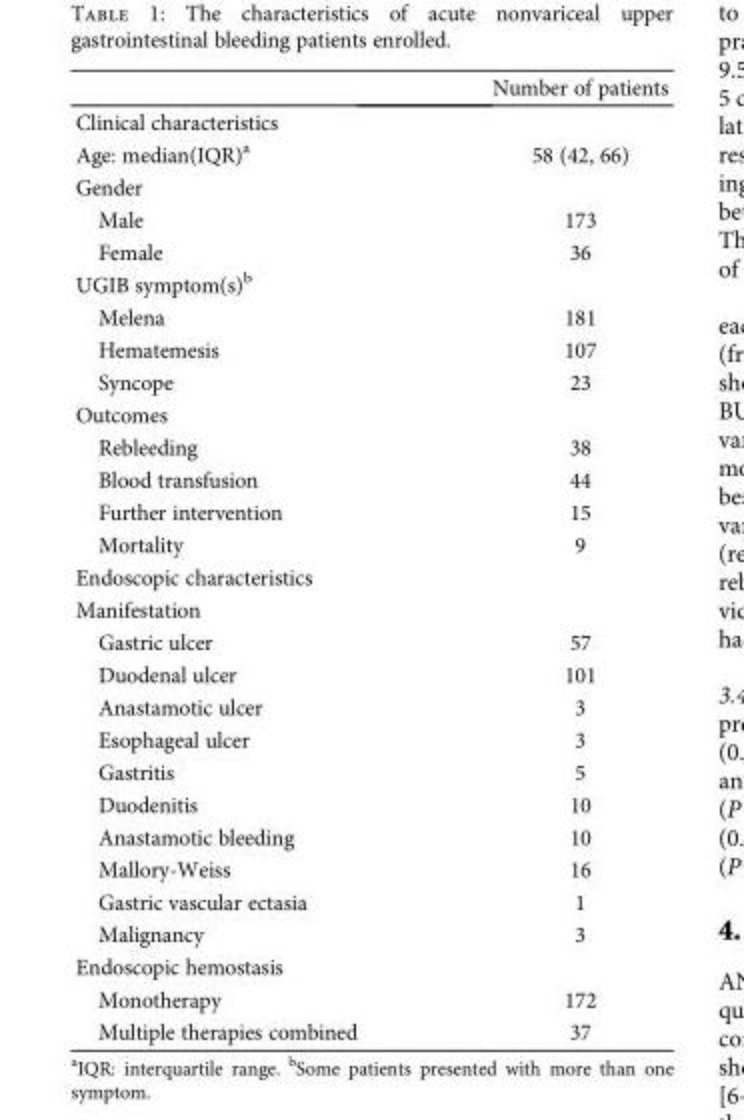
<table><thead><tr><td></td><td>Number of patients</td></tr></thead><tbody><tr><td colspan="2">Clinical characteristics</td></tr><tr><td>Age: median(IQR)<sup>a</sup></td><td>58 (42, 66)</td></tr><tr><td colspan="2">Gender</td></tr><tr><td>Male</td><td>173</td></tr><tr><td>Female</td><td>36</td></tr><tr><td colspan="2">UGIB symptom(s)<sup>b</sup></td></tr><tr><td>Melena</td><td>181</td></tr><tr><td>Hematemesis</td><td>107</td></tr><tr><td>Syncope</td><td>23</td></tr><tr><td colspan="2">Outcomes</td></tr><tr><td>Rebleeding</td><td>38</td></tr><tr><td>Blood transfusion</td><td>44</td></tr><tr><td>Further intervention</td><td>15</td></tr><tr><td>Mortality</td><td>9</td></tr><tr><td colspan="2">Endoscopic characteristics</td></tr><tr><td colspan="2">Manifestation</td></tr><tr><td>Gastric ulcer</td><td>57</td></tr><tr><td>Duodenal ulcer</td><td>101</td></tr><tr><td>Anastamotic ulcer</td><td>3</td></tr><tr><td>Esophageal ulcer</td><td>3</td></tr><tr><td>Gastritis</td><td>5</td></tr><tr><td>Duodenitis</td><td>10</td></tr><tr><td>Anastamotic bleeding</td><td>10</td></tr><tr><td>Mallory-Weiss</td><td>16</td></tr><tr><td>Gastric vascular ectasia</td><td>1</td></tr><tr><td>Malignancy</td><td>3</td></tr><tr><td colspan="2">Endoscopic hemostasis</td></tr><tr><td>Monotherapy</td><td>172</td></tr><tr><td>Multiple therapies combined</td><td>37</td></tr></tbody></table>